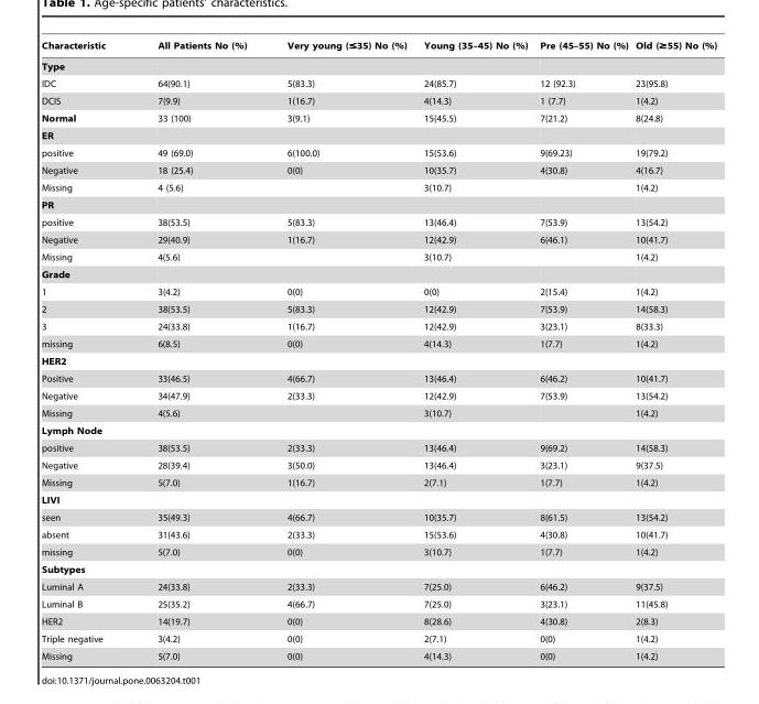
<table><thead><tr><td>Characteristic</td><td>All Patients No (%)</td><td>Very young (≤35) No (%)</td><td>Young (35–45) No (%)</td><td>Pre (45–55) No (%)</td><td>Old (≥55) No (%)</td></tr></thead><tbody><tr><td colspan="6">Type</td></tr><tr><td>IDC</td><td>64(90.1)</td><td>5(83.3)</td><td>24(85.7)</td><td>12 (92.3)</td><td>23(95.8)</td></tr><tr><td>DCIS</td><td>7(9.9)</td><td>1(16.7)</td><td>4(14.3)</td><td>1 (7.7)</td><td>1(4.2)</td></tr><tr><td>Normal</td><td>33 (100)</td><td>3(9.1)</td><td>15(45.5)</td><td>7(21.2)</td><td>8(24.8)</td></tr><tr><td colspan="6">ER</td></tr><tr><td>positive</td><td>49 (69.0)</td><td>6(100.0)</td><td>15(53.6)</td><td>9(69.23)</td><td>19(79.2)</td></tr><tr><td>Negative</td><td>18 (25.4)</td><td>0(0)</td><td>10(35.7)</td><td>4(30.8)</td><td>4(16.7)</td></tr><tr><td>Missing</td><td>4 (5.6)</td><td></td><td>3(10.7)</td><td></td><td>1(4.2)</td></tr><tr><td colspan="6">PR</td></tr><tr><td>positive</td><td>38(53.5)</td><td>5(83.3)</td><td>13(46.4)</td><td>7(53.9)</td><td>13(54.2)</td></tr><tr><td>Negative</td><td>29(40.9)</td><td>1(16.7)</td><td>12(42.9)</td><td>6(46.1)</td><td>10(41.7)</td></tr><tr><td>Missing</td><td>4(5.6)</td><td></td><td>3(10.7)</td><td></td><td>1(4.2)</td></tr><tr><td colspan="6">Grade</td></tr><tr><td>1</td><td>3(4.2)</td><td>0(0)</td><td>0(0)</td><td>2(15.4)</td><td>1(4.2)</td></tr><tr><td>2</td><td>38(53.5)</td><td>5(83.3)</td><td>12(42.9)</td><td>7(53.9)</td><td>14(58.3)</td></tr><tr><td>3</td><td>24(33.8)</td><td>1(16.7)</td><td>12(42.9)</td><td>3(23.1)</td><td>8(33.3)</td></tr><tr><td>missing</td><td>6(8.5)</td><td>0(0)</td><td>4(14.3)</td><td>1(7.7)</td><td>1(4.2)</td></tr><tr><td colspan="6">HER2</td></tr><tr><td>Positive</td><td>33(46.5)</td><td>4(66.7)</td><td>13(46.4)</td><td>6(46.2)</td><td>10(41.7)</td></tr><tr><td>Negative</td><td>34(47.9)</td><td>2(33.3)</td><td>12(42.9)</td><td>7(53.9)</td><td>13(54.2)</td></tr><tr><td>Missing</td><td>4(5.6)</td><td></td><td>3(10.7)</td><td></td><td>1(4.2)</td></tr><tr><td colspan="6">Lymph Node</td></tr><tr><td>positive</td><td>38(53.5)</td><td>2(33.3)</td><td>13(46.4)</td><td>9(69.2)</td><td>14(58.3)</td></tr><tr><td>Negative</td><td>28(39.4)</td><td>3(50.0)</td><td>13(46.4)</td><td>3(23.1)</td><td>9(37.5)</td></tr><tr><td>Missing</td><td>5(7.0)</td><td>1(16.7)</td><td>2(7.1)</td><td>1(7.7)</td><td>1(4.2)</td></tr><tr><td colspan="6">LIVI</td></tr><tr><td>seen</td><td>35(49.3)</td><td>4(66.7)</td><td>10(35.7)</td><td>8(61.5)</td><td>13(54.2)</td></tr><tr><td>absent</td><td>31(43.6)</td><td>2(33.3)</td><td>15(53.6)</td><td>4(30.8)</td><td>10(41.7)</td></tr><tr><td>missing</td><td>5(7.0)</td><td>0(0)</td><td>3(10.7)</td><td>1(7.7)</td><td>1(4.2)</td></tr><tr><td colspan="6">Subtypes</td></tr><tr><td>Luminal A</td><td>24(33.8)</td><td>2(33.3)</td><td>7(25.0)</td><td>6(46.2)</td><td>9(37.5)</td></tr><tr><td>Luminal B</td><td>25(35.2)</td><td>4(66.7)</td><td>7(25.0)</td><td>3(23.1)</td><td>11(45.8)</td></tr><tr><td>HER2</td><td>14(19.7)</td><td>0(0)</td><td>8(28.6)</td><td>4(30.8)</td><td>2(8.3)</td></tr><tr><td>Triple negative</td><td>3(4.2)</td><td>0(0)</td><td>2(7.1)</td><td>0(0)</td><td>1(4.2)</td></tr><tr><td>Missing</td><td>5(7.0)</td><td>0(0)</td><td>4(14.3)</td><td>0(0)</td><td>1(4.2)</td></tr></tbody></table>